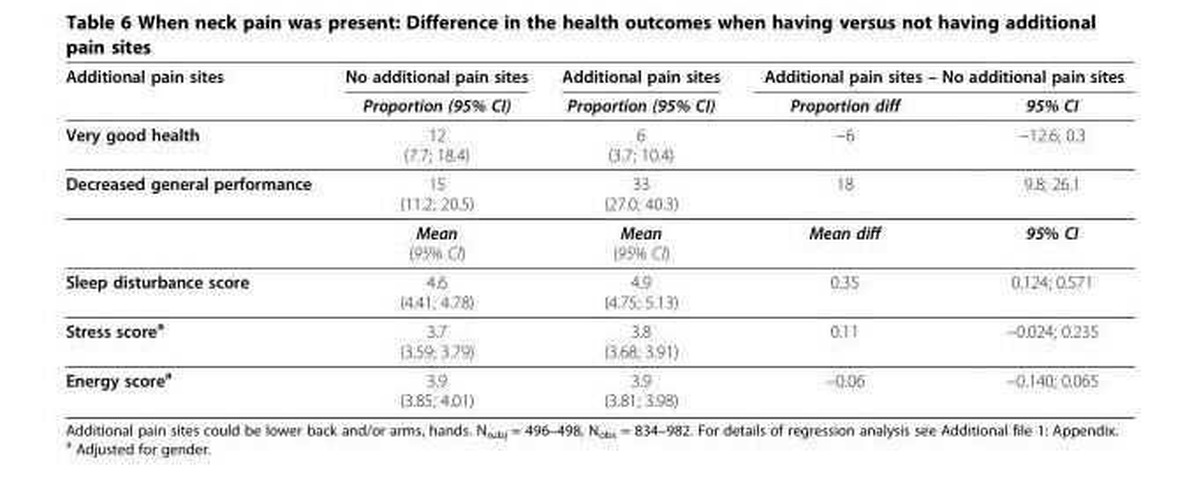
<table><thead><tr><td rowspan="2">Additional pain sites</td><td rowspan="2">No additional pain sites Proportion (95% CI)</td><td rowspan="2">Additional pain sites Proportion (95% CI)</td><td colspan="2">Additional pain sites – No additional pain sites</td></tr><tr><td>Proportion diff</td><td>95% CI</td></tr></thead><tbody><tr><td rowspan="2">Very good health</td><td>12</td><td>6</td><td>−6</td><td>−12.6; 0.3</td></tr><tr><td>(7.7; 18.4)</td><td>(3.7; 10.4)</td><td></td><td></td></tr><tr><td rowspan="4">Decreased general performance</td><td>15</td><td>33</td><td>18</td><td>9.8; 26.1</td></tr><tr><td>(11.2; 20.5)</td><td>(27.0; 40.3)</td><td></td><td></td></tr><tr><td>Mean</td><td>Mean</td><td>Mean diff</td><td>95% CI</td></tr><tr><td>(95% CI)</td><td>(95% CI)</td><td></td><td></td></tr><tr><td rowspan="2">Sleep disturbance score</td><td>4.6</td><td>4.9</td><td>0.35</td><td>0.124; 0.571</td></tr><tr><td>(4.41; 4.78)</td><td>(4.75; 5.13)</td><td></td><td></td></tr><tr><td rowspan="2">Stress score<sup>a</sup></td><td>3.7</td><td>3.8</td><td>0.11</td><td>−0.024; 0.235</td></tr><tr><td>(3.59; 3.79)</td><td>(3.68; 3.91)</td><td></td><td></td></tr><tr><td rowspan="2">Energy score<sup>a</sup></td><td>3.9</td><td>3.9</td><td>−0.06</td><td>−0.140; 0.065</td></tr><tr><td>(3.85; 4.01)</td><td>(3.81; 3.98)</td><td></td><td></td></tr></tbody></table>